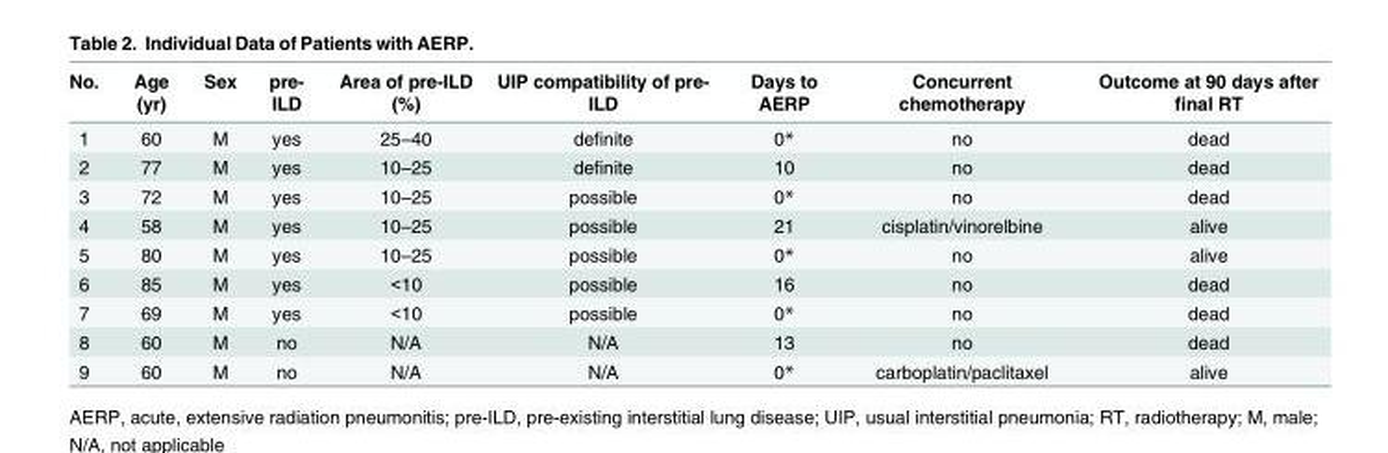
<table><thead><tr><td>No.</td><td>Age (yr)</td><td>Sex</td><td>pre- ILD</td><td>Area of pre-ILD (%)</td><td>UIP compatibility of pre- ILD</td><td>Days to AERP</td><td>Concurrent chemotherapy</td><td>Outcome at 90 days after final RT</td></tr></thead><tbody><tr><td>1</td><td>60</td><td>M</td><td>yes</td><td>25–40</td><td>definite</td><td>0*</td><td>no</td><td>dead</td></tr><tr><td>2</td><td>77</td><td>M</td><td>yes</td><td>10–25</td><td>definite</td><td>10</td><td>no</td><td>dead</td></tr><tr><td>3</td><td>72</td><td>M</td><td>yes</td><td>10–25</td><td>possible</td><td>0*</td><td>no</td><td>dead</td></tr><tr><td>4</td><td>58</td><td>M</td><td>yes</td><td>10–25</td><td>possible</td><td>21</td><td>cisplatin/vinorelbine</td><td>alive</td></tr><tr><td>5</td><td>80</td><td>M</td><td>yes</td><td>10–25</td><td>possible</td><td>0*</td><td>no</td><td>alive</td></tr><tr><td>6</td><td>85</td><td>M</td><td>yes</td><td>&lt;10</td><td>possible</td><td>16</td><td>no</td><td>dead</td></tr><tr><td>7</td><td>69</td><td>M</td><td>yes</td><td>&lt;10</td><td>possible</td><td>0*</td><td>no</td><td>dead</td></tr><tr><td>8</td><td>60</td><td>M</td><td>no</td><td>N/A</td><td>N/A</td><td>13</td><td>no</td><td>dead</td></tr><tr><td>9</td><td>60</td><td>M</td><td>no</td><td>N/A</td><td>N/A</td><td>0*</td><td>carboplatin/paclitaxel</td><td>alive</td></tr></tbody></table>